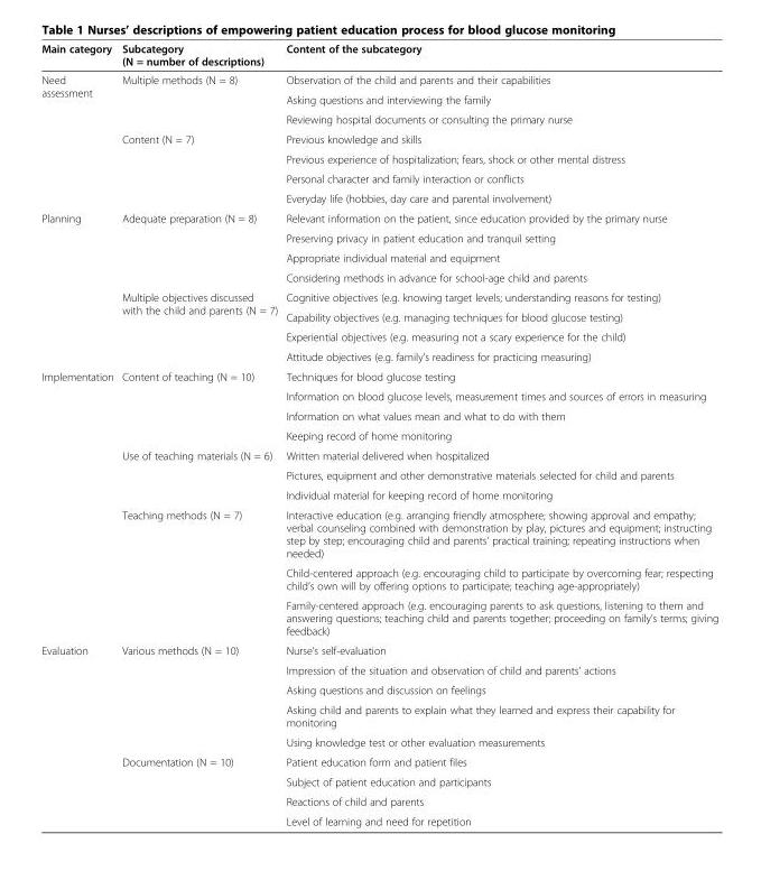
<table><thead><tr><td>Main category</td><td>Subcategory (N = number of descriptions)</td><td>Content of the subcategory</td></tr></thead><tbody><tr><td rowspan="7">Need assessment</td><td rowspan="3">Multiple methods (N = 8)</td><td>Observation of the child and parents and their capabilities</td></tr><tr><td>Asking questions and interviewing the family</td></tr><tr><td>Reviewing hospital documents or consulting the primary nurse</td></tr><tr><td rowspan="4">Content (N = 7)</td><td>Previous knowledge and skills</td></tr><tr><td>Previous experience of hospitalization; fears, shock or other mental distress</td></tr><tr><td>Personal character and family interaction or conflicts</td></tr><tr><td>Everyday life (hobbies, day care and parental involvement)</td></tr><tr><td rowspan="8">Planning</td><td rowspan="4">Adequate preparation (N = 8)</td><td>Relevant information on the patient, since education provided by the primary nurse</td></tr><tr><td>Preserving privacy in patient education and tranquil setting</td></tr><tr><td>Appropriate individual material and equipment</td></tr><tr><td>Considering methods in advance for school-age child and parents</td></tr><tr><td rowspan="4">Multiple objectives discussed with the child and parents (N = 7)</td><td>Cognitive objectives (e.g. knowing target levels; understanding reasons for testing)</td></tr><tr><td>Capability objectives (e.g. managing techniques for blood glucose testing)</td></tr><tr><td>Experiential objectives (e.g. measuring not a scary experience for the child)</td></tr><tr><td>Attitude objectives (e.g. family’s readiness for practicing measuring)</td></tr><tr><td rowspan="10">Implementation</td><td rowspan="4">Content of teaching (N = 10)</td><td>Techniques for blood glucose testing</td></tr><tr><td>Information on blood glucose levels, measurement times and sources of errors in measuring</td></tr><tr><td>Information on what values mean and what to do with them</td></tr><tr><td>Keeping record of home monitoring</td></tr><tr><td rowspan="3">Use of teaching materials (N = 6)</td><td>Written material delivered when hospitalized</td></tr><tr><td>Pictures, equipment and other demonstrative materials selected for child and parents</td></tr><tr><td>Individual material for keeping record of home monitoring</td></tr><tr><td rowspan="3">Teaching methods (N = 7)</td><td>Interactive education (e.g. arranging friendly atmosphere; showing approval and empathy; verbal counseling combined with demonstration by play, pictures and equipment; instructing step by step; encouraging child and parents’ practical training; repeating instructions when needed)</td></tr><tr><td>Child-centered approach (e.g. encouraging child to participate by overcoming fear; respecting child’s own will by offering options to participate; teaching age-appropriately)</td></tr><tr><td>Family-centered approach (e.g. encouraging parents to ask questions, listening to them and answering questions; teaching child and parents together; proceeding on family’s terms; giving feedback)</td></tr><tr><td rowspan="9">Evaluation</td><td rowspan="5">Various methods (N = 10)</td><td>Nurse’s self-evaluation</td></tr><tr><td>Impression of the situation and observation of child and parents’ actions</td></tr><tr><td>Asking questions and discussion on feelings</td></tr><tr><td>Asking child and parents to explain what they learned and express their capability for monitoring</td></tr><tr><td>Using knowledge test or other evaluation measurements</td></tr><tr><td rowspan="4">Documentation (N = 10)</td><td>Patient education form and patient files</td></tr><tr><td>Subject of patient education and participants</td></tr><tr><td>Reactions of child and parents</td></tr><tr><td>Level of learning and need for repetition</td></tr></tbody></table>